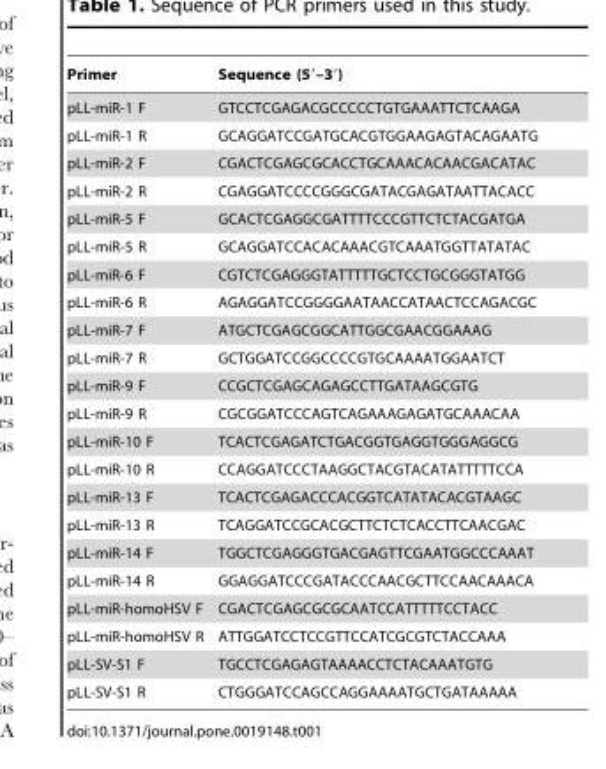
<table><thead><tr><td>Primer</td><td>Sequence (5′–3′)</td></tr></thead><tbody><tr><td>pLL-miR-1 F</td><td>GTCCTCGAGACGCCCCCTGTGAAATTCTCAAGA</td></tr><tr><td>pLL-miR-1 R</td><td>GCAGGATCCGATGCACGTGGAAGAGTACAGAATG</td></tr><tr><td>pLL-miR-2 F</td><td>CGACTCGAGCGCACCTGCAAACACAACGACATAC</td></tr><tr><td>pLL-miR-2 R</td><td>CGAGGATCCCCGGGCGATACGAGATAATTACACC</td></tr><tr><td>pLL-miR-5 F</td><td>GCACTCGAGGCGATTTTCCCGTTCTCTACGATGA</td></tr><tr><td>pLL-miR-5 R</td><td>GCAGGATCCACACAAACGTCAAATGGTTATATAC</td></tr><tr><td>pLL-miR-6 F</td><td>CGTCTCGAGGGTATTTTTGCTCCTGCGGGTATGG</td></tr><tr><td>pLL-miR-6 R</td><td>AGAGGATCCGGGGAATAACCATAACTCCAGACGC</td></tr><tr><td>pLL-miR-7 F</td><td>ATGCTCGAGCGGCATTGGCGAACGGAAAG</td></tr><tr><td>pLL-miR-7 R</td><td>GCTGGATCCGGCCCCGTGCAAAATGGAATCT</td></tr><tr><td>pLL-miR-9 F</td><td>CCGCTCGAGCAGAGCCTTGATAAGCGTG</td></tr><tr><td>pLL-miR-9 R</td><td>CGCGGATCCCAGTCAGAAAGAGATGCAAACAA</td></tr><tr><td>pLL-miR-10 F</td><td>TCACTCGAGATCTGACGGTGAGGTGGGAGGCG</td></tr><tr><td>pLL-miR-10 R</td><td>CCAGGATCCCTAAGGCTACGTACATATTTTTCCA</td></tr><tr><td>pLL-miR-13 F</td><td>TCACTCGAGACCCACGGTCATATACACGTAAGC</td></tr><tr><td>pLL-miR-13 R</td><td>TCAGGATCCGCACGCTTCTCTCACCTTCAACGAC</td></tr><tr><td>pLL-miR-14 F</td><td>TGGCTCGAGGGTGACGAGTTCGAATGGCCCAAAT</td></tr><tr><td>pLL-miR-14 R</td><td>GGAGGATCCCGATACCCAACGCTTCCAACAAACA</td></tr><tr><td>pLL-miR-homoHSV F</td><td>CGACTCGAGCGCGCAATCCATTTTTCCTACC</td></tr><tr><td>pLL-miR-homoHSV R</td><td>ATTGGATCCTCCGTTCCATCGCGTCTACCAAA</td></tr><tr><td>pLL-SV-S1 F</td><td>TGCCTCGAGAGTAAAACCTCTACAAATGTG</td></tr><tr><td>pLL-SV-S1 R</td><td>CTGGGATCCAGCCAGGAAAATGCTGATAAAAA</td></tr></tbody></table>